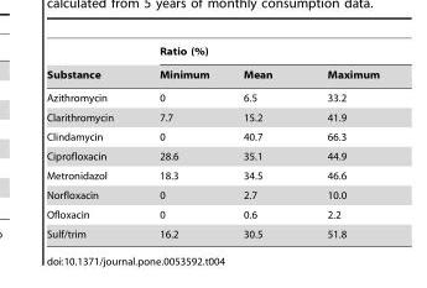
<table><thead><tr><td rowspan="2">Substance</td><td colspan="3">Ratio (%)</td></tr><tr><td>Minimum</td><td>Mean</td><td>Maximum</td></tr></thead><tbody><tr><td>Azithromycin</td><td>0</td><td>6.5</td><td>33.2</td></tr><tr><td>Clarithromycin</td><td>7.7</td><td>15.2</td><td>41.9</td></tr><tr><td>Clindamycin</td><td>0</td><td>40.7</td><td>66.3</td></tr><tr><td>Ciprofloxacin</td><td>28.6</td><td>35.1</td><td>44.9</td></tr><tr><td>Metronidazol</td><td>18.3</td><td>34.5</td><td>46.6</td></tr><tr><td>Norfloxacin</td><td>0</td><td>2.7</td><td>10.0</td></tr><tr><td>Ofloxacin</td><td>0</td><td>0.6</td><td>2.2</td></tr><tr><td>Sulf/trim</td><td>16.2</td><td>30.5</td><td>51.8</td></tr></tbody></table>